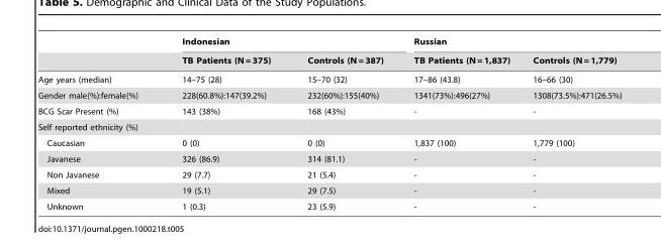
<table><thead><tr><td rowspan="2"></td><td colspan="2">Indonesian</td><td colspan="2">Russian</td></tr><tr><td>TB Patients (N = 375)</td><td>Controls (N = 387)</td><td>TB Patients (N = 1,837)</td><td>Controls (N = 1,779)</td></tr></thead><tbody><tr><td>Age years (median)</td><td>14–75 (28)</td><td>15–70 (32)</td><td>17–86 (43.8)</td><td>16–66 (30)</td></tr><tr><td>Gender male(%):female(%)</td><td>228(60.8%):147(39.2%)</td><td>232(60%):155(40%)</td><td>1341(73%):496(27%)</td><td>1308(73.5%):471(26.5%)</td></tr><tr><td>BCG Scar Present (%)</td><td>143 (38%)</td><td>168 (43%)</td><td>-</td><td>-</td></tr><tr><td colspan="5">Self reported ethnicity (%)</td></tr><tr><td>Caucasian</td><td>0 (0)</td><td>0 (0)</td><td>1,837 (100)</td><td>1,779 (100)</td></tr><tr><td>Javanese</td><td>326 (86.9)</td><td>314 (81.1)</td><td>-</td><td>-</td></tr><tr><td>Non Javanese</td><td>29 (7.7)</td><td>21 (5.4)</td><td>-</td><td>-</td></tr><tr><td>Mixed</td><td>19 (5.1)</td><td>29 (7.5)</td><td>-</td><td>-</td></tr><tr><td>Unknown</td><td>1 (0.3)</td><td>23 (5.9)</td><td>-</td><td>-</td></tr></tbody></table>